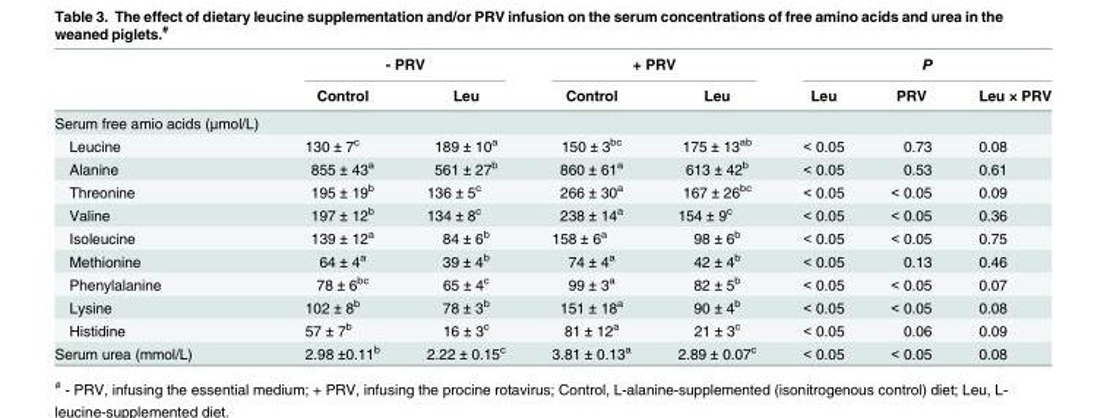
<table><thead><tr><td rowspan="2"></td><td colspan="2">- PRV</td><td colspan="2">+ PRV</td><td colspan="3">P</td></tr><tr><td>Control</td><td>Leu</td><td>Control</td><td>Leu</td><td>Leu</td><td>PRV</td><td>Leu × PRV</td></tr></thead><tbody><tr><td colspan="8">Serum free amio acids (μmol/L)</td></tr><tr><td>Leucine</td><td>130 ± 7<sup>c</sup></td><td>189 ± 10<sup>a</sup></td><td>150 ± 3<sup>bc</sup></td><td>175 ± 13<sup>ab</sup></td><td>&lt; 0.05</td><td>0.73</td><td>0.08</td></tr><tr><td>Alanine</td><td>855 ± 43<sup>a</sup></td><td>561 ± 27<sup>b</sup></td><td>860 ± 61<sup>a</sup></td><td>613 ± 42<sup>b</sup></td><td>&lt; 0.05</td><td>0.53</td><td>0.61</td></tr><tr><td>Threonine</td><td>195 ± 19<sup>b</sup></td><td>136 ± 5<sup>c</sup></td><td>266 ± 30<sup>a</sup></td><td>167 ± 26<sup>bc</sup></td><td>&lt; 0.05</td><td>&lt; 0.05</td><td>0.09</td></tr><tr><td>Valine</td><td>197 ± 12<sup>b</sup></td><td>134 ± 8<sup>c</sup></td><td>238 ± 14<sup>a</sup></td><td>154 ± 9<sup>c</sup></td><td>&lt; 0.05</td><td>&lt; 0.05</td><td>0.36</td></tr><tr><td>Isoleucine</td><td>139 ± 12<sup>a</sup></td><td>84 ± 6<sup>b</sup></td><td>158 ± 6<sup>a</sup></td><td>98 ± 6<sup>b</sup></td><td>&lt; 0.05</td><td>&lt; 0.05</td><td>0.75</td></tr><tr><td>Methionine</td><td>64 ± 4<sup>a</sup></td><td>39 ± 4<sup>b</sup></td><td>74 ± 4<sup>a</sup></td><td>42 ± 4<sup>b</sup></td><td>&lt; 0.05</td><td>0.13</td><td>0.46</td></tr><tr><td>Phenylalanine</td><td>78 ± 6<sup>bc</sup></td><td>65 ± 4<sup>c</sup></td><td>99 ± 3<sup>a</sup></td><td>82 ± 5<sup>b</sup></td><td>&lt; 0.05</td><td>&lt; 0.05</td><td>0.07</td></tr><tr><td>Lysine</td><td>102 ± 8<sup>b</sup></td><td>78 ± 3<sup>b</sup></td><td>151 ± 18<sup>a</sup></td><td>90 ± 4<sup>b</sup></td><td>&lt; 0.05</td><td>&lt; 0.05</td><td>0.08</td></tr><tr><td>Histidine</td><td>57 ± 7<sup>b</sup></td><td>16 ± 3<sup>c</sup></td><td>81 ± 12<sup>a</sup></td><td>21 ± 3<sup>c</sup></td><td>&lt; 0.05</td><td>0.06</td><td>0.09</td></tr><tr><td>Serum urea (mmol/L)</td><td>2.98 ±0.11<sup>b</sup></td><td>2.22 ± 0.15<sup>c</sup></td><td>3.81 ± 0.13<sup>a</sup></td><td>2.89 ± 0.07<sup>c</sup></td><td>&lt; 0.05</td><td>&lt; 0.05</td><td>0.08</td></tr></tbody></table>